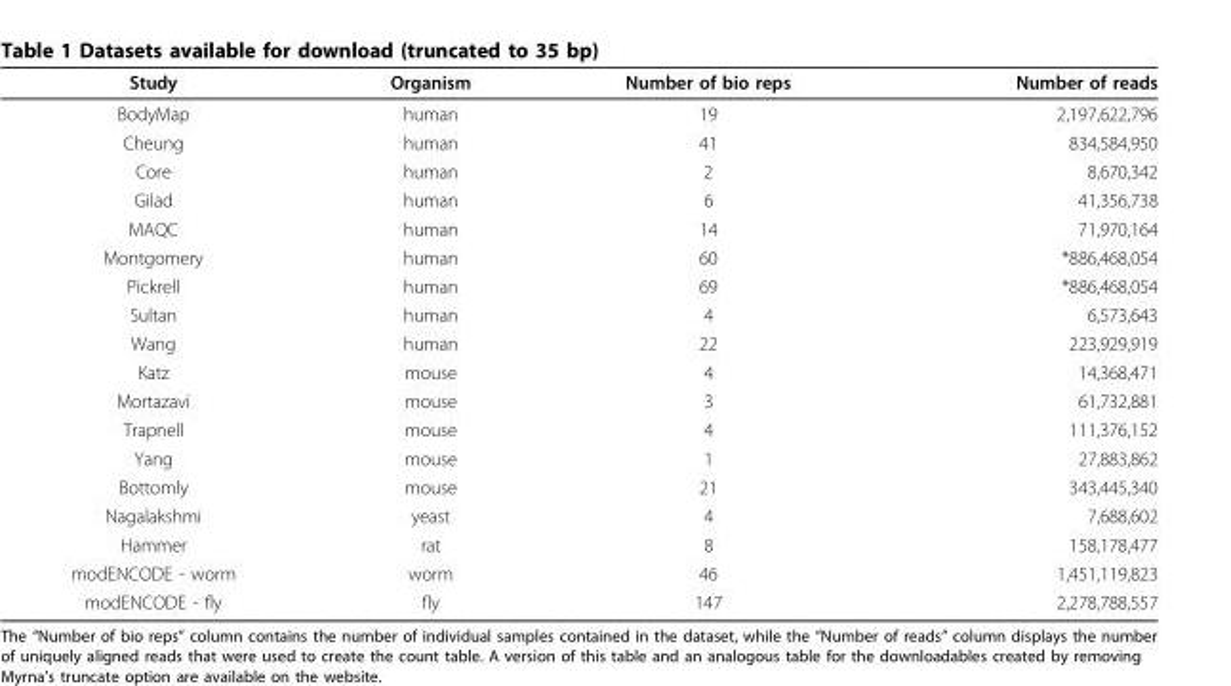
<table><thead><tr><td>Study</td><td>Organism</td><td>Number of bio reps</td><td>Number of reads</td></tr></thead><tbody><tr><td>BodyMap</td><td>human</td><td>19</td><td>2,197,622,796</td></tr><tr><td>Cheung</td><td>human</td><td>41</td><td>834,584,950</td></tr><tr><td>Core</td><td>human</td><td>2</td><td>8,670,342</td></tr><tr><td>Gilad</td><td>human</td><td>6</td><td>41,356,738</td></tr><tr><td>MAQC</td><td>human</td><td>14</td><td>71,970,164</td></tr><tr><td>Montgomery</td><td>human</td><td>60</td><td>*886,468,054</td></tr><tr><td>Pickrell</td><td>human</td><td>69</td><td>*886,468,054</td></tr><tr><td>Sultan</td><td>human</td><td>4</td><td>6,573,643</td></tr><tr><td>Wang</td><td>human</td><td>22</td><td>223,929,919</td></tr><tr><td>Katz</td><td>mouse</td><td>4</td><td>14,368,471</td></tr><tr><td>Mortazavi</td><td>mouse</td><td>3</td><td>61,732,881</td></tr><tr><td>Trapnell</td><td>mouse</td><td>4</td><td>111,376,152</td></tr><tr><td>Yang</td><td>mouse</td><td>1</td><td>27,883,862</td></tr><tr><td>Bottomly</td><td>mouse</td><td>21</td><td>343,445,340</td></tr><tr><td>Nagalakshmi</td><td>yeast</td><td>4</td><td>7,688,602</td></tr><tr><td>Hammer</td><td>rat</td><td>8</td><td>158,178,477</td></tr><tr><td>modENCODE - worm</td><td>worm</td><td>46</td><td>1,451,119,823</td></tr><tr><td>modENCODE - fly</td><td>fly</td><td>147</td><td>2,278,788,557</td></tr></tbody></table>